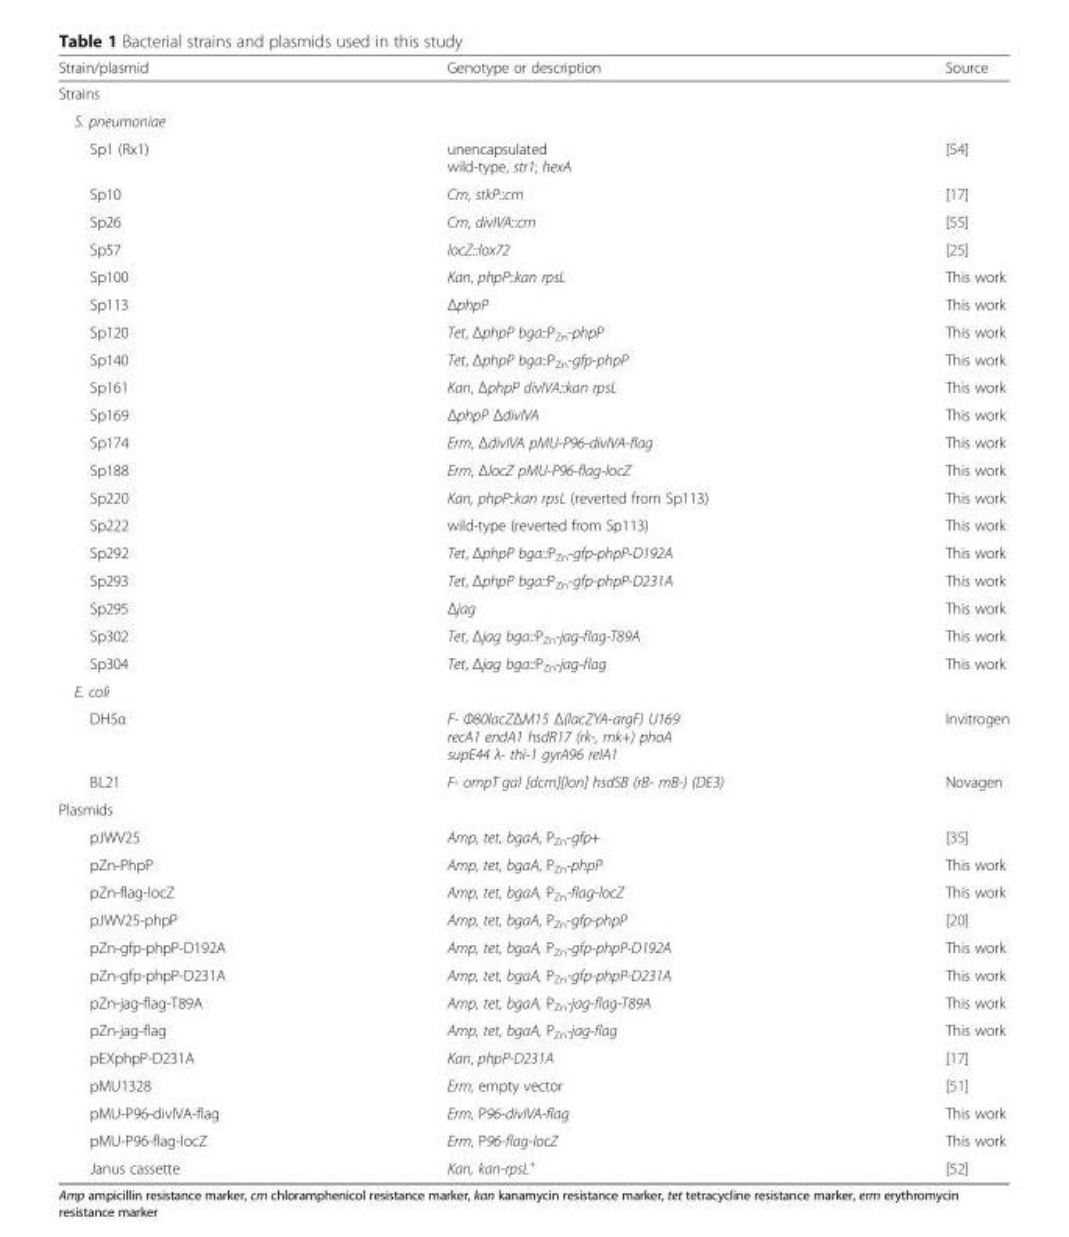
<table><thead><tr><td>Strain/plasmid</td><td>Genotype or description</td><td>Source</td></tr></thead><tbody><tr><td colspan="3">Strains</td></tr><tr><td colspan="3">S. pneumoniae</td></tr><tr><td>Sp1 (Rx1)</td><td>unencapsulated wild-type, str1; hexA</td><td>[54]</td></tr><tr><td>Sp10</td><td>Cm, stkP::cm</td><td>[17]</td></tr><tr><td>Sp26</td><td>Cm, divIVA::cm</td><td>[55]</td></tr><tr><td>Sp57</td><td>locZ::lox72</td><td>[25]</td></tr><tr><td>Sp100</td><td>Kan, phpP::kan rpsL</td><td>This work</td></tr><tr><td>Sp113</td><td>ΔphpP</td><td>This work</td></tr><tr><td>Sp120</td><td>Tet, ΔphpP bga::P<sub>Zn</sub>-phpP</td><td>This work</td></tr><tr><td>Sp140</td><td>Tet, ΔphpP bga::P<sub>Zn</sub>-gfp-phpP</td><td>This work</td></tr><tr><td>Sp161</td><td>Kan, ΔphpP divIVA::kan rpsL</td><td>This work</td></tr><tr><td>Sp169</td><td>ΔphpP ΔdivIVA</td><td>This work</td></tr><tr><td>Sp174</td><td>Erm, ΔdivIVA pMU-P96-divIVA-flag</td><td>This work</td></tr><tr><td>Sp188</td><td>Erm, ΔlocZ pMU-P96-flag-locZ</td><td>This work</td></tr><tr><td>Sp220</td><td>Kan, phpP::kan rpsL (reverted from Sp113)</td><td>This work</td></tr><tr><td>Sp222</td><td>wild-type (reverted from Sp113)</td><td>This work</td></tr><tr><td>Sp292</td><td>Tet, ΔphpP bga::P<sub>Zn</sub>-gfp-phpP-D192A</td><td>This work</td></tr><tr><td>Sp293</td><td>Tet, ΔphpP bga::P<sub>Zn</sub>-gfp-phpP-D231A</td><td>This work</td></tr><tr><td>Sp295</td><td>Δjag</td><td>This work</td></tr><tr><td>Sp302</td><td>Tet, Δjag bga::P<sub>Zn</sub>-jag-flag-T89A</td><td>This work</td></tr><tr><td>Sp304</td><td>Tet, Δjag bga::P<sub>Zn</sub>-jag-flag</td><td>This work</td></tr><tr><td colspan="3">E. coli</td></tr><tr><td>DH5α</td><td>F- Φ80lacZΔM15 Δ(lacZYA-argF) U169 recA1 endA1 hsdR17 (rk-, mk+) phoA supE44 λ- thi-1 gyrA96 relA1</td><td>Invitrogen</td></tr><tr><td>BL21</td><td>F- ompT gal [dcm][lon] hsdSB (rB- mB-) (DE3)</td><td>Novagen</td></tr><tr><td colspan="3">Plasmids</td></tr><tr><td>pJWV25</td><td>Amp, tet, bgaA, P<sub>Zn</sub>-gfp+</td><td>[35]</td></tr><tr><td>pZn-PhpP</td><td>Amp, tet, bgaA, P<sub>Zn</sub>-phpP</td><td>This work</td></tr><tr><td>pZn-flag-locZ</td><td>Amp, tet, bgaA, P<sub>Zn</sub>-flag-locZ</td><td>This work</td></tr><tr><td>pJWV25-phpP</td><td>Amp, tet, bgaA, P<sub>Zn</sub>-gfp-phpP</td><td>[20]</td></tr><tr><td>pZn-gfp-phpP-D192A</td><td>Amp, tet, bgaA, P<sub>Zn</sub>-gfp-phpP-D192A</td><td>This work</td></tr><tr><td>pZn-gfp-phpP-D231A</td><td>Amp, tet, bgaA, P<sub>Zn</sub>-gfp-phpP-D231A</td><td>This work</td></tr><tr><td>pZn-jag-flag-T89A</td><td>Amp, tet, bgaA, P<sub>Zn</sub>-jag-flag-T89A</td><td>This work</td></tr><tr><td>pZn-jag-flag</td><td>Amp, tet, bgaA, P<sub>Zn</sub>-jag-flag</td><td>This work</td></tr><tr><td>pEXphpP-D231A</td><td>Kan, phpP-D231A</td><td>[17]</td></tr><tr><td>pMU1328</td><td>Erm, empty vector</td><td>[51]</td></tr><tr><td>pMU-P96-divIVA-flag</td><td>Erm, P96-divIVA-flag</td><td>This work</td></tr><tr><td>pMU-P96-flag-locZ</td><td>Erm, P96-flag-locZ</td><td>This work</td></tr><tr><td>Janus cassette</td><td>Kan, kan-rpsL<sup>+</sup></td><td>[52]</td></tr></tbody></table>